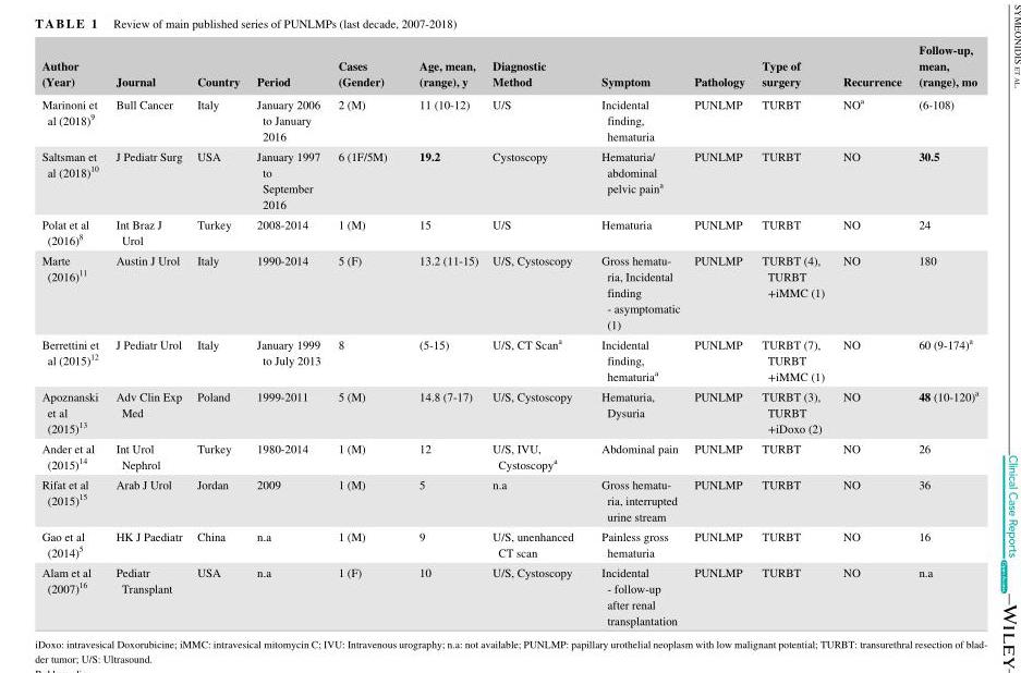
<table><thead><tr><td>Author (Year)</td><td>Journal</td><td>Country</td><td>Period</td><td>Cases (Gender)</td><td>Age, mean, (range), y</td><td>Diagnostic Method</td><td>Symptom</td><td>Pathology</td><td>Type of surgery</td><td>Recurrence</td><td>Follow‐up, mean, (range), mo</td></tr></thead><tbody><tr><td>Marinoni et al (2018)<sup>9</sup></td><td>Bull Cancer</td><td>Italy</td><td>January 2006 to January 2016</td><td>2 (M)</td><td>11 (10‐12)</td><td>U/S</td><td>Incidental finding, hematuria</td><td>PUNLMP</td><td>TURBT</td><td>NO<sup>a</sup></td><td>(6‐108)</td></tr><tr><td>Saltsman et al (2018)<sup>10</sup></td><td>J Pediatr Surg</td><td>USA</td><td>January 1997 to September 2016</td><td>6 (1F/5M)</td><td>19.2</td><td>Cystoscopy</td><td>Hematuria/ abdominal pelvic pain<sup>a</sup></td><td>PUNLMP</td><td>TURBT</td><td>NO</td><td>30.5</td></tr><tr><td>Polat et al (2016)<sup>8</sup></td><td>Int Braz J Urol</td><td>Turkey</td><td>2008‐2014</td><td>1 (M)</td><td>15</td><td>U/S</td><td>Hematuria</td><td>PUNLMP</td><td>TURBT</td><td>NO</td><td>24</td></tr><tr><td>Marte (2016)<sup>11</sup></td><td>Austin J Urol</td><td>Italy</td><td>1990‐2014</td><td>5 (F)</td><td>13.2 (11‐15)</td><td>U/S, Cystoscopy</td><td>Gross hematu- ria, Incidental finding ‐ asymptomatic (1)</td><td>PUNLMP</td><td>TURBT (4), TURBT +iMMC (1)</td><td>NO</td><td>180</td></tr><tr><td>Berrettini et al (2015)<sup>12</sup></td><td>J Pediatr Urol</td><td>Italy</td><td>January 1999 to July 2013</td><td>8</td><td>(5‐15)</td><td>U/S, CT Scan<sup>a</sup></td><td>Incidental finding, hematuria<sup>a</sup></td><td>PUNLMP</td><td>TURBT (7), TURBT +iMMC (1)</td><td>NO</td><td>60 (9‐174)<sup>a</sup></td></tr><tr><td>Apoznanski et al (2015)<sup>13</sup></td><td>Adv Clin Exp Med</td><td>Poland</td><td>1999‐2011</td><td>5 (M)</td><td>14.8 (7‐17)</td><td>U/S, Cystoscopy</td><td>Hematuria, Dysuria</td><td>PUNLMP</td><td>TURBT (3), TURBT +iDoxo (2)</td><td>NO</td><td>48 (10‐120)<sup>a</sup></td></tr><tr><td>Ander et al (2015)<sup>14</sup></td><td>Int Urol Nephrol</td><td>Turkey</td><td>1980‐2014</td><td>1 (M)</td><td>12</td><td>U/S, IVU, Cystoscopy<sup>a</sup></td><td>Abdominal pain</td><td>PUNLMP</td><td>TURBT</td><td>NO</td><td>26</td></tr><tr><td>Rifat et al (2015)<sup>15</sup></td><td>Arab J Urol</td><td>Jordan</td><td>2009</td><td>1 (M)</td><td>5</td><td>n.a</td><td>Gross hematu- ria, interrupted urine stream</td><td>PUNLMP</td><td>TURBT</td><td>NO</td><td>36</td></tr><tr><td>Gao et al (2014)<sup>5</sup></td><td>HK J Paediatr</td><td>China</td><td>n.a</td><td>1 (M)</td><td>9</td><td>U/S, unenhanced CT scan</td><td>Painless gross hematuria</td><td>PUNLMP</td><td>TURBT</td><td>NO</td><td>16</td></tr><tr><td>Alam et al (2007)<sup>16</sup></td><td>Pediatr Transplant</td><td>USA</td><td>n.a</td><td>1 (F)</td><td>10</td><td>U/S, Cystoscopy</td><td>Incidental ‐ follow‐up after renal transplantation</td><td>PUNLMP</td><td>TURBT</td><td>NO</td><td>n.a</td></tr></tbody></table>